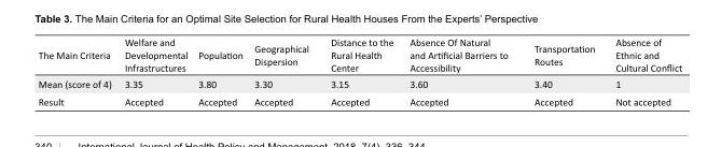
<table><tbody><tr><td>The Main Criteria</td><td>Welfare and Developmental Infrastructures</td><td>Population</td><td>Geographical Dispersion</td><td>Distance to the Rural Health Center</td><td>Absence Of Natural and Artificial Barriers to Accessibility</td><td>Transportation Routes</td><td>Absence of Ethnic and Cultural Conflict</td></tr><tr><td>Mean (score of 4)</td><td>3.35</td><td>3.80</td><td>3.30</td><td>3.15</td><td>3.60</td><td>3.40</td><td>1</td></tr><tr><td>Result</td><td>Accepted</td><td>Accepted</td><td>Accepted</td><td>Accepted</td><td>Accepted</td><td>Accepted</td><td>Not accepted</td></tr></tbody></table>